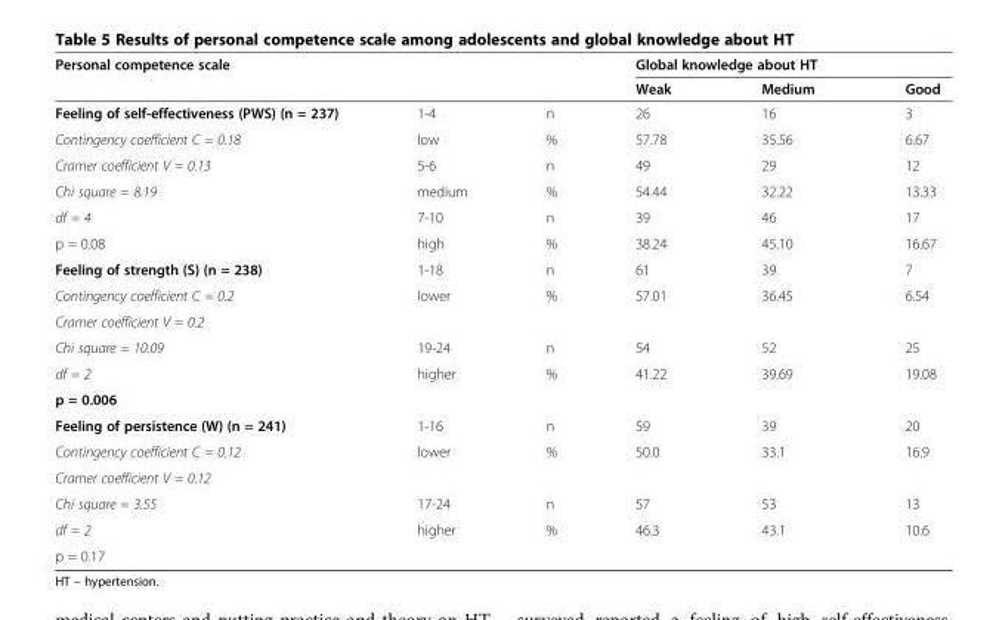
<table><thead><tr><td rowspan="2" colspan="3">Personal competence scale</td><td colspan="3">Global knowledge about HT</td></tr><tr><td rowspan="2">Weak 26</td><td rowspan="2">Medium 16</td><td rowspan="2">Good 3</td></tr><tr><td>Feeling of self-effectiveness (PWS) (n = 237)</td><td>1-4</td><td>n</td></tr></thead><tbody><tr><td>Contingency coefficient C = 0.18</td><td>low</td><td>%</td><td>57.78</td><td>35.56</td><td>6.67</td></tr><tr><td>Cramer coefficient V = 0.13</td><td>5-6</td><td>n</td><td>49</td><td>29</td><td>12</td></tr><tr><td>Chi square = 8.19</td><td>medium</td><td>%</td><td>54.44</td><td>32.22</td><td>13.33</td></tr><tr><td>df = 4</td><td>7-10</td><td>n</td><td>39</td><td>46</td><td>17</td></tr><tr><td>p = 0.08</td><td>high</td><td>%</td><td>38.24</td><td>45.10</td><td>16.67</td></tr><tr><td>Feeling of strength (S) (n = 238)</td><td>1-18</td><td>n</td><td>61</td><td>39</td><td>7</td></tr><tr><td>Contingency coefficient C = 0.2</td><td>lower</td><td>%</td><td>57.01</td><td>36.45</td><td>6.54</td></tr><tr><td colspan="6">Cramer coefficient V = 0.2</td></tr><tr><td>Chi square = 10.09</td><td>19-24</td><td>n</td><td>54</td><td>52</td><td>25</td></tr><tr><td>df = 2</td><td>higher</td><td>%</td><td>41.22</td><td>39.69</td><td>19.08</td></tr><tr><td colspan="6">p = 0.006</td></tr><tr><td>Feeling of persistence (W) (n = 241)</td><td>1-16</td><td>n</td><td>59</td><td>39</td><td>20</td></tr><tr><td>Contingency coefficient C = 0.12</td><td>lower</td><td>%</td><td>50.0</td><td>33.1</td><td>16.9</td></tr><tr><td colspan="6">Cramer coefficient V = 0.12</td></tr><tr><td>Chi square = 3.55</td><td>17-24</td><td>n</td><td>57</td><td>53</td><td>13</td></tr><tr><td>df = 2</td><td>higher</td><td>%</td><td>46.3</td><td>43.1</td><td>10.6</td></tr><tr><td>p = 0.17</td><td></td><td></td><td></td><td></td><td></td></tr></tbody></table>